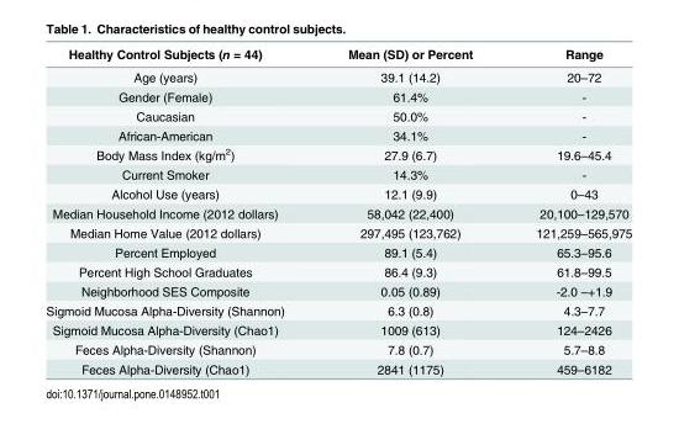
<table><thead><tr><td>Healthy Control Subjects (n = 44)</td><td>Mean (SD) or Percent</td><td>Range</td></tr></thead><tbody><tr><td>Age (years)</td><td>39.1 (14.2)</td><td>20–72</td></tr><tr><td>Gender (Female)</td><td>61.4%</td><td>-</td></tr><tr><td>Caucasian</td><td>50.0%</td><td>-</td></tr><tr><td>African-American</td><td>34.1%</td><td>-</td></tr><tr><td>Body Mass Index (kg/m<sup>2</sup>)</td><td>27.9 (6.7)</td><td>19.6–45.4</td></tr><tr><td>Current Smoker</td><td>14.3%</td><td>-</td></tr><tr><td>Alcohol Use (years)</td><td>12.1 (9.9)</td><td>0–43</td></tr><tr><td>Median Household Income (2012 dollars)</td><td>58,042 (22,400)</td><td>20,100–129,570</td></tr><tr><td>Median Home Value (2012 dollars)</td><td>297,495 (123,762)</td><td>121,259–565,975</td></tr><tr><td>Percent Employed</td><td>89.1 (5.4)</td><td>65.3–95.6</td></tr><tr><td>Percent High School Graduates</td><td>86.4 (9.3)</td><td>61.8–99.5</td></tr><tr><td>Neighborhood SES Composite</td><td>0.05 (0.89)</td><td>-2.0 –+1.9</td></tr><tr><td>Sigmoid Mucosa Alpha-Diversity (Shannon)</td><td>6.3 (0.8)</td><td>4.3–7.7</td></tr><tr><td>Sigmoid Mucosa Alpha-Diversity (Chao1)</td><td>1009 (613)</td><td>124–2426</td></tr><tr><td>Feces Alpha-Diversity (Shannon)</td><td>7.8 (0.7)</td><td>5.7–8.8</td></tr><tr><td>Feces Alpha-Diversity (Chao1)</td><td>2841 (1175)</td><td>459–6182</td></tr></tbody></table>